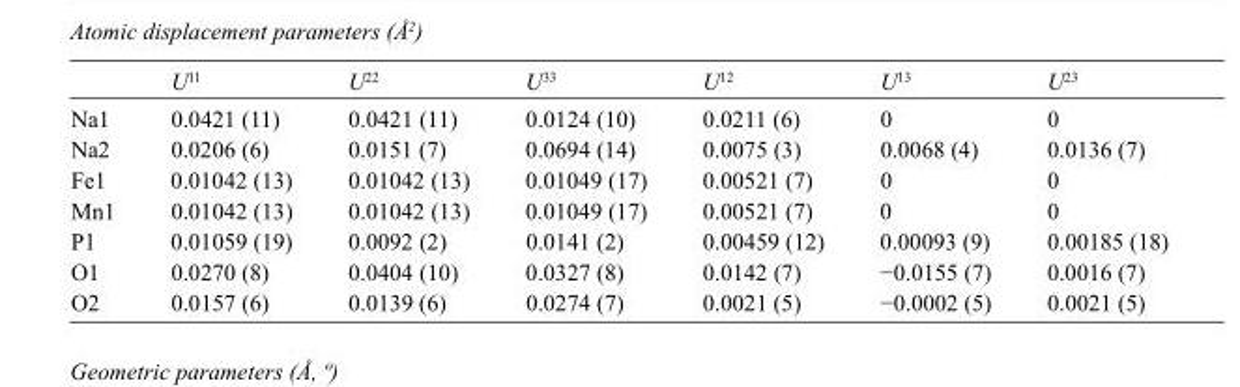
<table><thead><tr><td></td><td>U<sup>11</sup></td><td>U<sup>22</sup></td><td>U<sup>33</sup></td><td>U<sup>12</sup></td><td>U<sup>13</sup></td><td>U<sup>23</sup></td></tr></thead><tbody><tr><td>Na1</td><td>0.0421 (11)</td><td>0.0421 (11)</td><td>0.0124 (10)</td><td>0.0211 (6)</td><td>0</td><td>0</td></tr><tr><td>Na2</td><td>0.0206 (6)</td><td>0.0151 (7)</td><td>0.0694 (14)</td><td>0.0075 (3)</td><td>0.0068 (4)</td><td>0.0136 (7)</td></tr><tr><td>Fe1</td><td>0.01042 (13)</td><td>0.01042 (13)</td><td>0.01049 (17)</td><td>0.00521 (7)</td><td>0</td><td>0</td></tr><tr><td>Mn1</td><td>0.01042 (13)</td><td>0.01042 (13)</td><td>0.01049 (17)</td><td>0.00521 (7)</td><td>0</td><td>0</td></tr><tr><td>P1</td><td>0.01059 (19)</td><td>0.0092 (2)</td><td>0.0141 (2)</td><td>0.00459 (12)</td><td>0.00093 (9)</td><td>0.00185 (18)</td></tr><tr><td>O1</td><td>0.0270 (8)</td><td>0.0404 (10)</td><td>0.0327 (8)</td><td>0.0142 (7)</td><td>−0.0155 (7)</td><td>0.0016 (7)</td></tr><tr><td>O2</td><td>0.0157 (6)</td><td>0.0139 (6)</td><td>0.0274 (7)</td><td>0.0021 (5)</td><td>−0.0002 (5)</td><td>0.0021 (5)</td></tr></tbody></table>